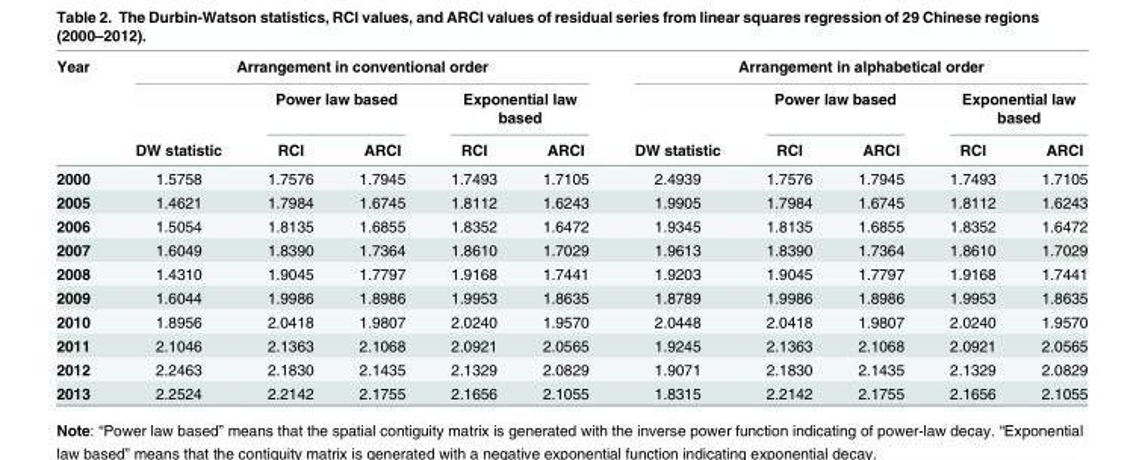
<table><thead><tr><td rowspan="3">Year</td><td colspan="5">Arrangement in conventional order</td><td colspan="5">Arrangement in alphabetical order</td></tr><tr><td rowspan="2">DW statistic</td><td colspan="2">Power law based</td><td colspan="2">Exponential law based</td><td rowspan="2">DW statistic</td><td colspan="2">Power law based</td><td colspan="2">Exponential law based</td></tr><tr><td>RCI</td><td>ARCI</td><td>RCI</td><td>ARCI</td><td>RCI</td><td>ARCI</td><td>RCI</td><td>ARCI</td></tr></thead><tbody><tr><td>2000</td><td>1.5758</td><td>1.7576</td><td>1.7945</td><td>1.7493</td><td>1.7105</td><td>2.4939</td><td>1.7576</td><td>1.7945</td><td>1.7493</td><td>1.7105</td></tr><tr><td>2005</td><td>1.4621</td><td>1.7984</td><td>1.6745</td><td>1.8112</td><td>1.6243</td><td>1.9905</td><td>1.7984</td><td>1.6745</td><td>1.8112</td><td>1.6243</td></tr><tr><td>2006</td><td>1.5054</td><td>1.8135</td><td>1.6855</td><td>1.8352</td><td>1.6472</td><td>1.9345</td><td>1.8135</td><td>1.6855</td><td>1.8352</td><td>1.6472</td></tr><tr><td>2007</td><td>1.6049</td><td>1.8390</td><td>1.7364</td><td>1.8610</td><td>1.7029</td><td>1.9613</td><td>1.8390</td><td>1.7364</td><td>1.8610</td><td>1.7029</td></tr><tr><td>2008</td><td>1.4310</td><td>1.9045</td><td>1.7797</td><td>1.9168</td><td>1.7441</td><td>1.9203</td><td>1.9045</td><td>1.7797</td><td>1.9168</td><td>1.7441</td></tr><tr><td>2009</td><td>1.6044</td><td>1.9986</td><td>1.8986</td><td>1.9953</td><td>1.8635</td><td>1.8789</td><td>1.9986</td><td>1.8986</td><td>1.9953</td><td>1.8635</td></tr><tr><td>2010</td><td>1.8956</td><td>2.0418</td><td>1.9807</td><td>2.0240</td><td>1.9570</td><td>2.0448</td><td>2.0418</td><td>1.9807</td><td>2.0240</td><td>1.9570</td></tr><tr><td>2011</td><td>2.1046</td><td>2.1363</td><td>2.1068</td><td>2.0921</td><td>2.0565</td><td>1.9245</td><td>2.1363</td><td>2.1068</td><td>2.0921</td><td>2.0565</td></tr><tr><td>2012</td><td>2.2463</td><td>2.1830</td><td>2.1435</td><td>2.1329</td><td>2.0829</td><td>1.9071</td><td>2.1830</td><td>2.1435</td><td>2.1329</td><td>2.0829</td></tr><tr><td>2013</td><td>2.2524</td><td>2.2142</td><td>2.1755</td><td>2.1656</td><td>2.1055</td><td>1.8315</td><td>2.2142</td><td>2.1755</td><td>2.1656</td><td>2.1055</td></tr></tbody></table>